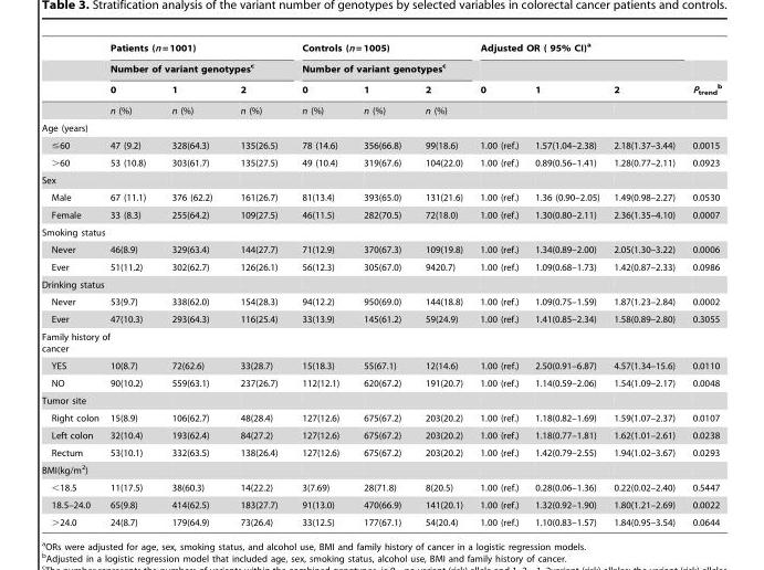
<table><thead><tr><td rowspan="3"></td><td rowspan="2" colspan="3">Patients (n = 1001) Number of variant genotypes<sup>c</sup></td><td rowspan="2" colspan="3">Controls (n = 1005) Number of variant genotypes<sup>c</sup></td><td colspan="3">Adjusted OR ( 95% CI)<sup>a</sup></td><td rowspan="3">P<sub>trend</sub> b</td></tr><tr><td rowspan="2">0</td><td rowspan="2">1</td><td rowspan="2">2</td></tr><tr><td>0</td><td>1</td><td>2</td><td>0</td><td>1</td><td>2</td></tr></thead><tbody><tr><td></td><td>n (%)</td><td>n (%)</td><td>n (%)</td><td>n (%)</td><td>n (%)</td><td>n (%)</td><td></td><td></td><td></td><td></td></tr><tr><td colspan="11">Age (years)</td></tr><tr><td>≤60</td><td>47 (9.2)</td><td>328(64.3)</td><td>135(26.5)</td><td>78 (14.6)</td><td>356(66.8)</td><td>99(18.6)</td><td>1.00 (ref.)</td><td>1.57(1.04–2.38)</td><td>2.18(1.37–3.44)</td><td>0.0015</td></tr><tr><td>&gt;60</td><td>53 (10.8)</td><td>303(61.7)</td><td>135(27.5)</td><td>49 (10.4)</td><td>319(67.6)</td><td>104(22.0)</td><td>1.00 (ref.)</td><td>0.89(0.56–1.41)</td><td>1.28(0.77–2.11)</td><td>0.0923</td></tr><tr><td colspan="11">Sex</td></tr><tr><td>Male</td><td>67 (11.1)</td><td>376 (62.2)</td><td>161(26.7)</td><td>81(13.4)</td><td>393(65.0)</td><td>131(21.6)</td><td>1.00 (ref.)</td><td>1.36 (0.90–2.05)</td><td>1.49(0.98–2.27)</td><td>0.0530</td></tr><tr><td>Female</td><td>33 (8.3)</td><td>255(64.2)</td><td>109(27.5)</td><td>46(11.5)</td><td>282(70.5)</td><td>72(18.0)</td><td>1.00 (ref.)</td><td>1.30(0.80–2.11)</td><td>2.36(1.35–4.10)</td><td>0.0007</td></tr><tr><td colspan="11">Smoking status</td></tr><tr><td>Never</td><td>46(8.9)</td><td>329(63.4)</td><td>144(27.7)</td><td>71(12.9)</td><td>370(67.3)</td><td>109(19.8)</td><td>1.00 (ref.)</td><td>1.34(0.89–2.00)</td><td>2.05(1.30–3.22)</td><td>0.0006</td></tr><tr><td>Ever</td><td>51(11.2)</td><td>302(62.7)</td><td>126(26.1)</td><td>56(12.3)</td><td>305(67.0)</td><td>9420.7)</td><td>1.00 (ref.)</td><td>1.09(0.68–1.73)</td><td>1.42(0.87–2.33)</td><td>0.0986</td></tr><tr><td colspan="11">Drinking status</td></tr><tr><td>Never</td><td>53(9.7)</td><td>338(62.0)</td><td>154(28.3)</td><td>94(12.2)</td><td>950(69.0)</td><td>144(18.8)</td><td>1.00 (ref.)</td><td>1.09(0.75–1.59)</td><td>1.87(1.23–2.84)</td><td>0.0002</td></tr><tr><td>Ever</td><td>47(10.3)</td><td>293(64.3)</td><td>116(25.4)</td><td>33(13.9)</td><td>145(61.2)</td><td>59(24.9)</td><td>1.00 (ref.)</td><td>1.41(0.85–2.34)</td><td>1.58(0.89–2.80)</td><td>0.3055</td></tr><tr><td colspan="11">Family history of cancer</td></tr><tr><td>YES</td><td>10(8.7)</td><td>72(62.6)</td><td>33(28.7)</td><td>15(18.3)</td><td>55(67.1)</td><td>12(14.6)</td><td>1.00 (ref.)</td><td>2.50(0.91–6.87)</td><td>4.57(1.34–15.6)</td><td>0.0110</td></tr><tr><td>NO</td><td>90(10.2)</td><td>559(63.1)</td><td>237(26.7)</td><td>112(12.1)</td><td>620(67.2)</td><td>191(20.7)</td><td>1.00 (ref.)</td><td>1.14(0.59–2.06)</td><td>1.54(1.09–2.17)</td><td>0.0048</td></tr><tr><td colspan="11">Tumor site</td></tr><tr><td>Right colon</td><td>15(8.9)</td><td>106(62.7)</td><td>48(28.4)</td><td>127(12.6)</td><td>675(67.2)</td><td>203(20.2)</td><td>1.00 (ref.)</td><td>1.18(0.82–1.69)</td><td>1.59(1.07–2.37)</td><td>0.0107</td></tr><tr><td>Left colon</td><td>32(10.4)</td><td>193(62.4)</td><td>84(27.2)</td><td>127(12.6)</td><td>675(67.2)</td><td>203(20.2)</td><td>1.00 (ref.)</td><td>1.18(0.77–1.81)</td><td>1.62(1.01–2.61)</td><td>0.0238</td></tr><tr><td>Rectum</td><td>53(10.1)</td><td>332(63.5)</td><td>138(26.4)</td><td>127(12.6)</td><td>675(67.2)</td><td>203(20.2)</td><td>1.00 (ref.)</td><td>1.42(0.79–2.55)</td><td>1.94(1.02–3.67)</td><td>0.0293</td></tr><tr><td colspan="11">BMI(kg/m<sup>2</sup>)</td></tr><tr><td>&lt;18.5</td><td>11(17.5)</td><td>38(60.3)</td><td>14(22.2)</td><td>3(7.69)</td><td>28(71.8)</td><td>8(20.5)</td><td>1.00 (ref.)</td><td>0.28(0.06–1.36)</td><td>0.22(0.02–2.40)</td><td>0.5447</td></tr><tr><td>18.5–24.0</td><td>65(9.8)</td><td>414(62.5)</td><td>183(27.7)</td><td>91(13.0)</td><td>470(66.9)</td><td>141(20.1)</td><td>1.00 (ref.)</td><td>1.32(0.92–1.90)</td><td>1.80(1.21–2.69)</td><td>0.0022</td></tr><tr><td>&gt;24.0</td><td>24(8.7)</td><td>179(64.9)</td><td>73(26.4)</td><td>33(12.5)</td><td>177(67.1)</td><td>54(20.4)</td><td>1.00 (ref.)</td><td>1.10(0.83–1.57)</td><td>1.84(0.95–3.54)</td><td>0.0644</td></tr></tbody></table>